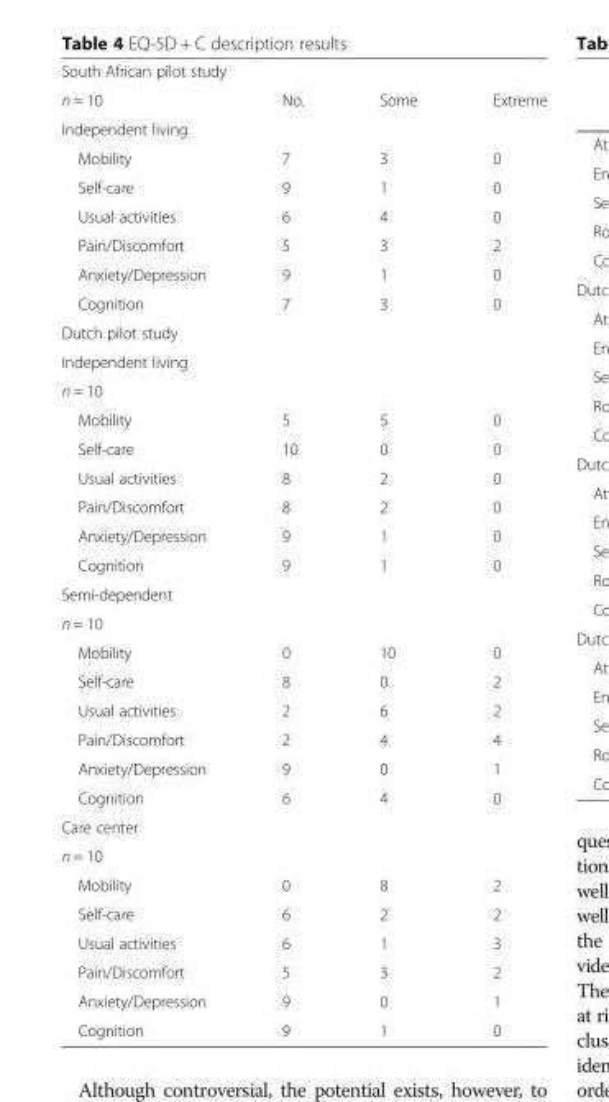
<table><tbody><tr><td colspan="4">South African pilot study</td></tr><tr><td>n = 10</td><td>No.</td><td>Some</td><td>Extreme</td></tr><tr><td colspan="4">Independent living</td></tr><tr><td>Mobility</td><td>7</td><td>3</td><td>0</td></tr><tr><td>Self-care</td><td>9</td><td>1</td><td>0</td></tr><tr><td>Usual activities</td><td>6</td><td>4</td><td>0</td></tr><tr><td>Pain/Discomfort</td><td>5</td><td>3</td><td>2</td></tr><tr><td>Anxiety/Depression</td><td>9</td><td>1</td><td>0</td></tr><tr><td>Cognition</td><td>7</td><td>3</td><td>0</td></tr><tr><td colspan="4">Dutch pilot study</td></tr><tr><td colspan="4">Independent living</td></tr><tr><td colspan="4">n = 10</td></tr><tr><td>Mobility</td><td>5</td><td>5</td><td>0</td></tr><tr><td>Self-care</td><td>10</td><td>0</td><td>0</td></tr><tr><td>Usual activities</td><td>8</td><td>2</td><td>0</td></tr><tr><td>Pain/Discomfort</td><td>8</td><td>2</td><td>0</td></tr><tr><td>Anxiety/Depression</td><td>9</td><td>1</td><td>0</td></tr><tr><td>Cognition</td><td>9</td><td>1</td><td>0</td></tr><tr><td colspan="4">Semi-dependent</td></tr><tr><td colspan="4">n = 10</td></tr><tr><td>Mobility</td><td>0</td><td>10</td><td>0</td></tr><tr><td>Self-care</td><td>8</td><td>0</td><td>2</td></tr><tr><td>Usual activities</td><td>2</td><td>6</td><td>2</td></tr><tr><td>Pain/Discomfort</td><td>2</td><td>4</td><td>4</td></tr><tr><td>Anxiety/Depression</td><td>9</td><td>0</td><td>1</td></tr><tr><td>Cognition</td><td>6</td><td>4</td><td>0</td></tr><tr><td colspan="4">Care center</td></tr><tr><td colspan="4">n = 10</td></tr><tr><td>Mobility</td><td>0</td><td>8</td><td>2</td></tr><tr><td>Self-care</td><td>6</td><td>2</td><td>2</td></tr><tr><td>Usual activities</td><td>6</td><td>1</td><td>3</td></tr><tr><td>Pain/Discomfort</td><td>5</td><td>3</td><td>2</td></tr><tr><td>Anxiety/Depression</td><td>9</td><td>0</td><td>1</td></tr><tr><td>Cognition</td><td>9</td><td>1</td><td>0</td></tr></tbody></table>